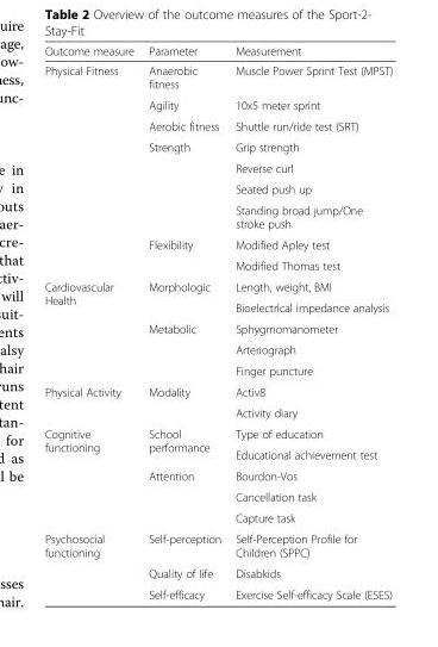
<table><thead><tr><td>Outcome measure</td><td>Parameter</td><td>Measurement</td></tr></thead><tbody><tr><td rowspan="9">Physical Fitness</td><td>Anaerobic fitness</td><td>Muscle Power Sprint Test (MPST)</td></tr><tr><td>Agility</td><td>10x5 meter sprint</td></tr><tr><td>Aerobic fitness</td><td>Shuttle run/ride test (SRT)</td></tr><tr><td rowspan="4">Strength</td><td>Grip strength</td></tr><tr><td>Reverse curl</td></tr><tr><td>Seated push up</td></tr><tr><td>Standing broad jump/One stroke push</td></tr><tr><td rowspan="2">Flexibility</td><td>Modified Apley test</td></tr><tr><td>Modified Thomas test</td></tr><tr><td rowspan="5">Cardiovascular Health</td><td rowspan="2">Morphologic</td><td>Length, weight, BMI</td></tr><tr><td>Bioelectrical impedance analysis</td></tr><tr><td rowspan="3">Metabolic</td><td>Sphygmomanometer</td></tr><tr><td>Arteriograph</td></tr><tr><td>Finger puncture</td></tr><tr><td rowspan="2">Physical Activity</td><td rowspan="2">Modality</td><td>Activ8</td></tr><tr><td>Activity diary</td></tr><tr><td rowspan="5">Cognitive functioning</td><td rowspan="2">School performance</td><td>Type of education</td></tr><tr><td>Educational achievement test</td></tr><tr><td rowspan="3">Attention</td><td>Bourdon-Vos</td></tr><tr><td>Cancellation task</td></tr><tr><td>Capture task</td></tr><tr><td rowspan="3">Psychosocial functioning</td><td>Self-perception</td><td>Self-Perception Profile for Children (SPPC)</td></tr><tr><td>Quality of life</td><td>Disabkids</td></tr><tr><td>Self-efficacy</td><td>Exercise Self-efficacy Scale (ESES)</td></tr></tbody></table>